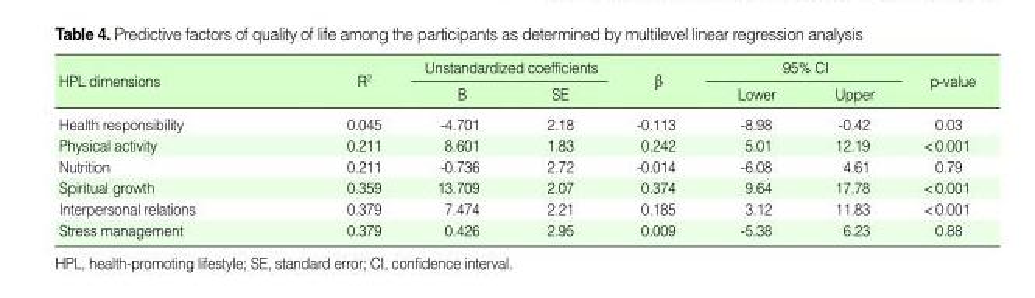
<table><thead><tr><td rowspan="2">HPL dimensions</td><td rowspan="2">R<sup>2</sup></td><td colspan="2">Unstandardized coefficients</td><td rowspan="2">β</td><td colspan="2">95% CI</td><td rowspan="2">p-value</td></tr><tr><td>B</td><td>SE</td><td>Lower</td><td>Upper</td></tr></thead><tbody><tr><td>Health responsibility</td><td>0.045</td><td>-4.701</td><td>2.18</td><td>-0.113</td><td>-8.98</td><td>-0.42</td><td>0.03</td></tr><tr><td>Physical activity</td><td>0.211</td><td>8.601</td><td>1.83</td><td>0.242</td><td>5.01</td><td>12.19</td><td>&lt;0.001</td></tr><tr><td>Nutrition</td><td>0.211</td><td>-0.736</td><td>2.72</td><td>-0.014</td><td>-6.08</td><td>4.61</td><td>0.79</td></tr><tr><td>Spiritual growth</td><td>0.359</td><td>13.709</td><td>2.07</td><td>0.374</td><td>9.64</td><td>17.78</td><td>&lt;0.001</td></tr><tr><td>Interpersonal relations</td><td>0.379</td><td>7.474</td><td>2.21</td><td>0.185</td><td>3.12</td><td>11.83</td><td>&lt;0.001</td></tr><tr><td>Stress management</td><td>0.379</td><td>0.426</td><td>2.95</td><td>0.009</td><td>-5.38</td><td>6.23</td><td>0.88</td></tr></tbody></table>